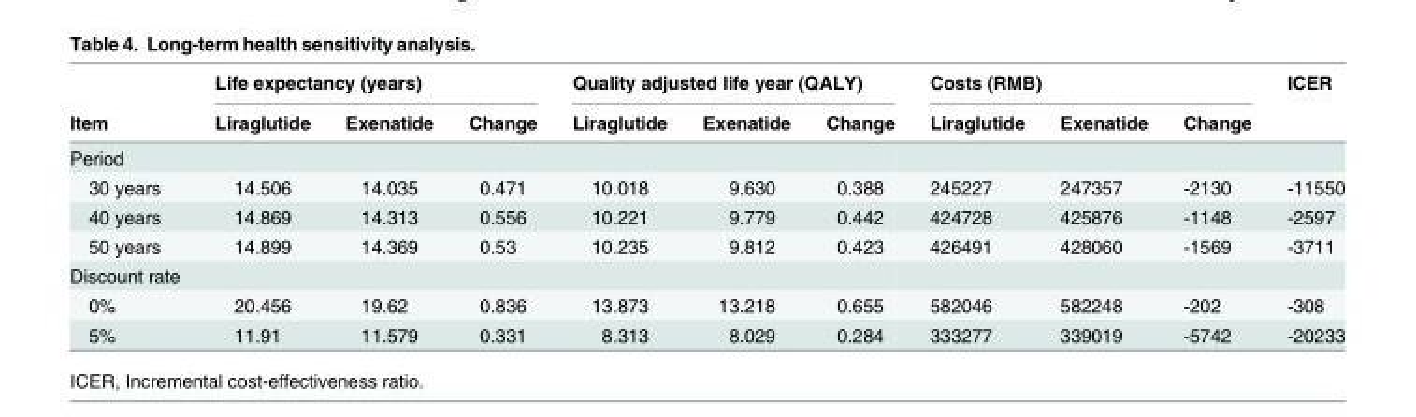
<table><thead><tr><td rowspan="2">Item</td><td colspan="3">Life expectancy (years)</td><td colspan="3">Quality adjusted life year (QALY)</td><td colspan="3">Costs (RMB)</td><td rowspan="2">ICER</td></tr><tr><td>Liraglutide</td><td>Exenatide</td><td>Change</td><td>Liraglutide</td><td>Exenatide</td><td>Change</td><td>Liraglutide</td><td>Exenatide</td><td>Change</td></tr></thead><tbody><tr><td colspan="11">Period</td></tr><tr><td>30 years</td><td>14.506</td><td>14.035</td><td>0.471</td><td>10.018</td><td>9.630</td><td>0.388</td><td>245227</td><td>247357</td><td>-2130</td><td>-11550</td></tr><tr><td>40 years</td><td>14.869</td><td>14.313</td><td>0.556</td><td>10.221</td><td>9.779</td><td>0.442</td><td>424728</td><td>425876</td><td>-1148</td><td>-2597</td></tr><tr><td>50 years</td><td>14.899</td><td>14.369</td><td>0.53</td><td>10.235</td><td>9.812</td><td>0.423</td><td>426491</td><td>428060</td><td>-1569</td><td>-3711</td></tr><tr><td colspan="11">Discount rate</td></tr><tr><td>0%</td><td>20.456</td><td>19.62</td><td>0.836</td><td>13.873</td><td>13.218</td><td>0.655</td><td>582046</td><td>582248</td><td>-202</td><td>-308</td></tr><tr><td>5%</td><td>11.91</td><td>11.579</td><td>0.331</td><td>8.313</td><td>8.029</td><td>0.284</td><td>333277</td><td>339019</td><td>-5742</td><td>-20233</td></tr></tbody></table>